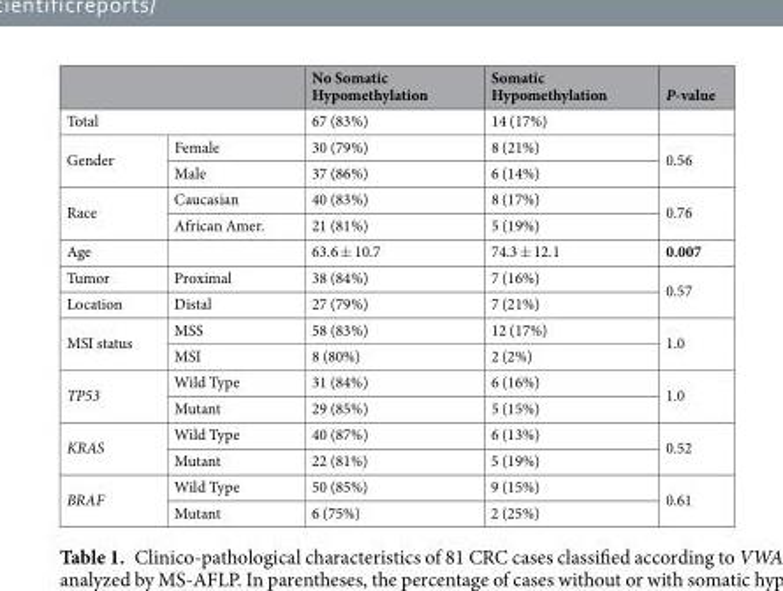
<table><thead><tr><td></td><td></td><td>No Somatic Hypomethylation</td><td>Somatic Hypomethylation</td><td>P-value</td></tr></thead><tbody><tr><td colspan="2">Total</td><td>67 (83%)</td><td>14 (17%)</td><td></td></tr><tr><td rowspan="2">Gender</td><td>Female</td><td>30 (79%)</td><td>8 (21%)</td><td rowspan="2">0.56</td></tr><tr><td>Male</td><td>37 (86%)</td><td>6 (14%)</td></tr><tr><td rowspan="2">Race</td><td>Caucasian</td><td>40 (83%)</td><td>8 (17%)</td><td rowspan="2">0.76</td></tr><tr><td>African Amer.</td><td>21 (81%)</td><td>5 (19%)</td></tr><tr><td>Age</td><td></td><td>63.6 ± 10.7</td><td>74.3 ± 12.1</td><td>0.007</td></tr><tr><td>Tumor</td><td>Proximal</td><td>38 (84%)</td><td>7 (16%)</td><td rowspan="2">0.57</td></tr><tr><td>Location</td><td>Distal</td><td>27 (79%)</td><td>7 (21%)</td></tr><tr><td rowspan="2">MSI status</td><td>MSS</td><td>58 (83%)</td><td>12 (17%)</td><td rowspan="2">1.0</td></tr><tr><td>MSI</td><td>8 (80%)</td><td>2 (2%)</td></tr><tr><td rowspan="2">TP53</td><td>Wild Type</td><td>31 (84%)</td><td>6 (16%)</td><td rowspan="2">1.0</td></tr><tr><td>Mutant</td><td>29 (85%)</td><td>5 (15%)</td></tr><tr><td rowspan="2">KRAS</td><td>Wild Type</td><td>40 (87%)</td><td>6 (13%)</td><td rowspan="2">0.52</td></tr><tr><td>Mutant</td><td>22 (81%)</td><td>5 (19%)</td></tr><tr><td rowspan="2">BRAF</td><td>Wild Type</td><td>50 (85%)</td><td>9 (15%)</td><td rowspan="2">0.61</td></tr><tr><td>Mutant</td><td>6 (75%)</td><td>2 (25%)</td></tr></tbody></table>